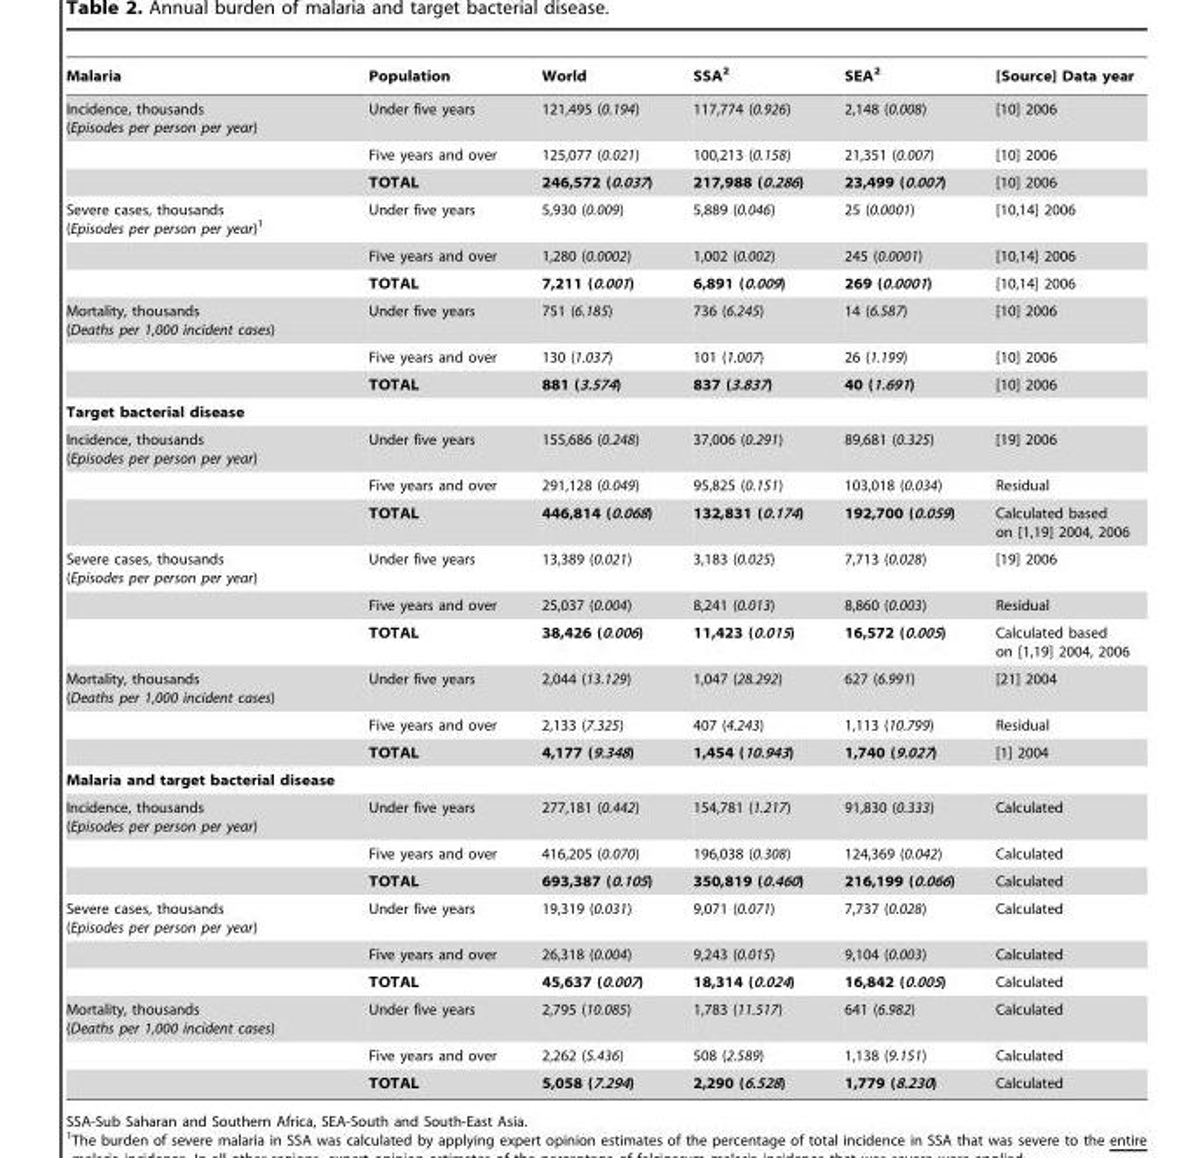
<table><thead><tr><td>Malaria</td><td>Population</td><td>World</td><td>SSA<sup>2</sup></td><td>SEA<sup>2</sup></td><td>[Source] Data year</td></tr></thead><tbody><tr><td rowspan="3">Incidence, thousands (Episodes per person per year)</td><td>Under five years</td><td>121,495 (0.194)</td><td>117,774 (0.926)</td><td>2,148 (0.008)</td><td>[10] 2006</td></tr><tr><td>Five years and over</td><td>125,077 (0.021)</td><td>100,213 (0.158)</td><td>21,351 (0.007)</td><td>[10] 2006</td></tr><tr><td>TOTAL</td><td>246,572 (0.037)</td><td>217,988 (0.286)</td><td>23,499 (0.007)</td><td>[10] 2006</td></tr><tr><td rowspan="3">Severe cases, thousands (Episodes per person per year)<sup>1</sup></td><td>Under five years</td><td>5,930 (0.009)</td><td>5,889 (0.046)</td><td>25 (0.0001)</td><td>[10,14] 2006</td></tr><tr><td>Five years and over</td><td>1,280 (0.0002)</td><td>1,002 (0.002)</td><td>245 (0.0001)</td><td>[10,14] 2006</td></tr><tr><td>TOTAL</td><td>7,211 (0.001)</td><td>6,891 (0.009)</td><td>269 (0.0001)</td><td>[10,14] 2006</td></tr><tr><td rowspan="3">Mortality, thousands (Deaths per 1,000 incident cases)</td><td>Under five years</td><td>751 (6.185)</td><td>736 (6.245)</td><td>14 (6.587)</td><td>[10] 2006</td></tr><tr><td>Five years and over</td><td>130 (1.037)</td><td>101 (1.007)</td><td>26 (1.199)</td><td>[10] 2006</td></tr><tr><td>TOTAL</td><td>881 (3.574)</td><td>837 (3.837)</td><td>40 (1.691)</td><td>[10] 2006</td></tr><tr><td colspan="6">Target bacterial disease</td></tr><tr><td rowspan="3">Incidence, thousands (Episodes per person per year)</td><td>Under five years</td><td>155,686 (0.248)</td><td>37,006 (0.291)</td><td>89,681 (0.325)</td><td>[19] 2006</td></tr><tr><td>Five years and over</td><td>291,128 (0.049)</td><td>95,825 (0.151)</td><td>103,018 (0.034)</td><td>Residual</td></tr><tr><td>TOTAL</td><td>446,814 (0.068)</td><td>132,831 (0.174)</td><td>192,700 (0.059)</td><td>Calculated based on [1,19] 2004, 2006</td></tr><tr><td rowspan="3">Severe cases, thousands (Episodes per person per year)</td><td>Under five years</td><td>13,389 (0.021)</td><td>3,183 (0.025)</td><td>7,713 (0.028)</td><td>[19] 2006</td></tr><tr><td>Five years and over</td><td>25,037 (0.004)</td><td>8,241 (0.013)</td><td>8,860 (0.003)</td><td>Residual</td></tr><tr><td>TOTAL</td><td>38,426 (0.006)</td><td>11,423 (0.015)</td><td>16,572 (0.005)</td><td>Calculated based on [1,19] 2004, 2006</td></tr><tr><td rowspan="3">Mortality, thousands (Deaths per 1,000 incident cases)</td><td>Under five years</td><td>2,044 (13.129)</td><td>1,047 (28.292)</td><td>627 (6.991)</td><td>[21] 2004</td></tr><tr><td>Five years and over</td><td>2,133 (7.325)</td><td>407 (4.243)</td><td>1,113 (10.799)</td><td>Residual</td></tr><tr><td>TOTAL</td><td>4,177 (9.348)</td><td>1,454 (10.943)</td><td>1,740 (9.027)</td><td>[1] 2004</td></tr><tr><td colspan="6">Malaria and target bacterial disease</td></tr><tr><td rowspan="3">Incidence, thousands (Episodes per person per year)</td><td>Under five years</td><td>277,181 (0.442)</td><td>154,781 (1.217)</td><td>91,830 (0.333)</td><td>Calculated</td></tr><tr><td>Five years and over</td><td>416,205 (0.070)</td><td>196,038 (0.308)</td><td>124,369 (0.042)</td><td>Calculated</td></tr><tr><td>TOTAL</td><td>693,387 (0.105)</td><td>350,819 (0.460)</td><td>216,199 (0.066)</td><td>Calculated</td></tr><tr><td rowspan="3">Severe cases, thousands (Episodes per person per year)</td><td>Under five years</td><td>19,319 (0.031)</td><td>9,071 (0.071)</td><td>7,737 (0.028)</td><td>Calculated</td></tr><tr><td>Five years and over</td><td>26,318 (0.004)</td><td>9,243 (0.015)</td><td>9,104 (0.003)</td><td>Calculated</td></tr><tr><td>TOTAL</td><td>45,637 (0.007)</td><td>18,314 (0.024)</td><td>16,842 (0.005)</td><td>Calculated</td></tr><tr><td rowspan="3">Mortality, thousands (Deaths per 1,000 incident cases)</td><td>Under five years</td><td>2,795 (10.085)</td><td>1,783 (11.517)</td><td>641 (6.982)</td><td>Calculated</td></tr><tr><td>Five years and over</td><td>2,262 (5.436)</td><td>508 (2.589)</td><td>1,138 (9.151)</td><td>Calculated</td></tr><tr><td>TOTAL</td><td>5,058 (7.294)</td><td>2,290 (6.528)</td><td>1,779 (8.230)</td><td>Calculated</td></tr></tbody></table>